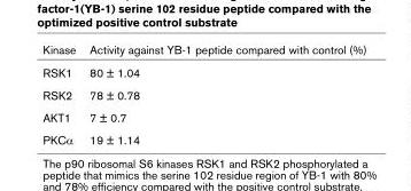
<table><thead><tr><td>Kinase</td><td>Activity against YB-1 peptide compared with control (%)</td></tr></thead><tbody><tr><td>RSK1</td><td>80 ± 1.04</td></tr><tr><td>RSK2</td><td>78 ± 0.78</td></tr><tr><td>AKT1</td><td>7 ± 0.7</td></tr><tr><td>PKCα</td><td>19 ± 1.14</td></tr></tbody></table>